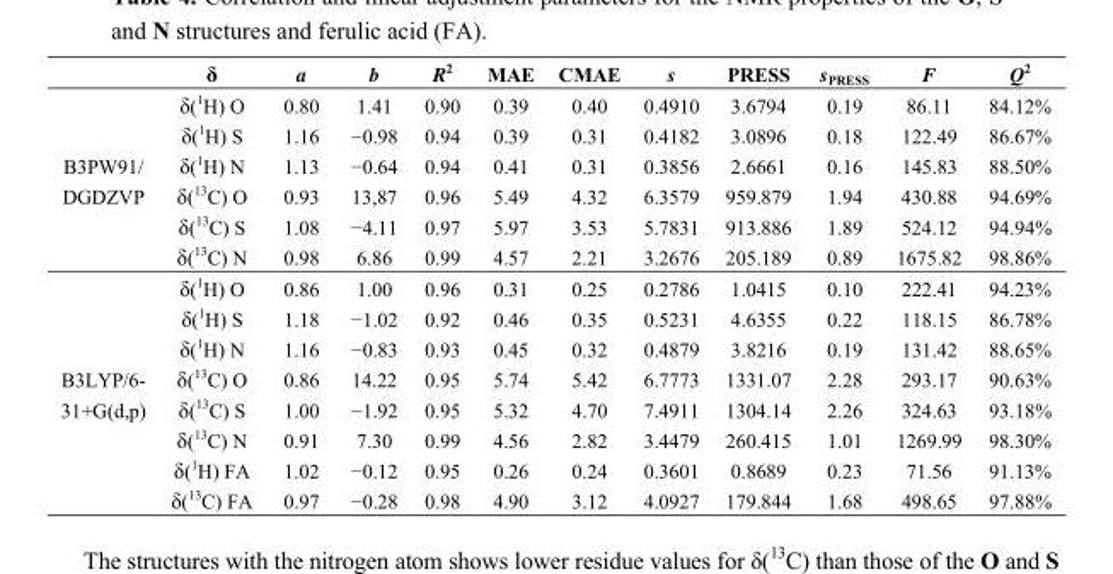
<table><thead><tr><td></td><td>δ</td><td>a</td><td>b</td><td>R<sup>2</sup></td><td>MAE</td><td>CMAE</td><td>s</td><td>PRESS</td><td>s<sub>PRESS</sub></td><td>F</td><td>Q<sup>2</sup></td></tr></thead><tbody><tr><td rowspan="6">B3PW91/ DGDZVP</td><td>δ(<sup>1</sup>H) O</td><td>0.80</td><td>1.41</td><td>0.90</td><td>0.39</td><td>0.40</td><td>0.4910</td><td>3.6794</td><td>0.19</td><td>86.11</td><td>84.12%</td></tr><tr><td>δ(<sup>1</sup>H) S</td><td>1.16</td><td>−0.98</td><td>0.94</td><td>0.39</td><td>0.31</td><td>0.4182</td><td>3.0896</td><td>0.18</td><td>122.49</td><td>86.67%</td></tr><tr><td>δ(<sup>1</sup>H) N</td><td>1.13</td><td>−0.64</td><td>0.94</td><td>0.41</td><td>0.31</td><td>0.3856</td><td>2.6661</td><td>0.16</td><td>145.83</td><td>88.50%</td></tr><tr><td>δ(<sup>13</sup>C) O</td><td>0.93</td><td>13,87</td><td>0.96</td><td>5.49</td><td>4.32</td><td>6.3579</td><td>959.879</td><td>1.94</td><td>430.88</td><td>94.69%</td></tr><tr><td>δ(<sup>13</sup>C) S</td><td>1.08</td><td>−4.11</td><td>0.97</td><td>5.97</td><td>3.53</td><td>5.7831</td><td>913.886</td><td>1.89</td><td>524.12</td><td>94.94%</td></tr><tr><td>δ(<sup>13</sup>C) N</td><td>0.98</td><td>6.86</td><td>0.99</td><td>4.57</td><td>2.21</td><td>3.2676</td><td>205.189</td><td>0.89</td><td>1675.82</td><td>98.86%</td></tr><tr><td rowspan="8">B3LYP/6- 31+G(d,p)</td><td>δ(<sup>1</sup>H) O</td><td>0.86</td><td>1.00</td><td>0.96</td><td>0.31</td><td>0.25</td><td>0.2786</td><td>1.0415</td><td>0.10</td><td>222.41</td><td>94.23%</td></tr><tr><td>δ(<sup>1</sup>H) S</td><td>1.18</td><td>−1.02</td><td>0.92</td><td>0.46</td><td>0.35</td><td>0.5231</td><td>4.6355</td><td>0.22</td><td>118.15</td><td>86.78%</td></tr><tr><td>δ(<sup>1</sup>H) N</td><td>1.16</td><td>−0.83</td><td>0.93</td><td>0.45</td><td>0.32</td><td>0.4879</td><td>3.8216</td><td>0.19</td><td>131.42</td><td>88.65%</td></tr><tr><td>δ(<sup>13</sup>C) O</td><td>0.86</td><td>14.22</td><td>0.95</td><td>5.74</td><td>5.42</td><td>6.7773</td><td>1331.07</td><td>2.28</td><td>293.17</td><td>90.63%</td></tr><tr><td>δ(<sup>13</sup>C) S</td><td>1.00</td><td>−1.92</td><td>0.95</td><td>5.32</td><td>4.70</td><td>7.4911</td><td>1304.14</td><td>2.26</td><td>324.63</td><td>93.18%</td></tr><tr><td>δ(<sup>13</sup>C) N</td><td>0.91</td><td>7.30</td><td>0.99</td><td>4.56</td><td>2.82</td><td>3.4479</td><td>260.415</td><td>1.01</td><td>1269.99</td><td>98.30%</td></tr><tr><td>δ(<sup>1</sup>H) FA</td><td>1.02</td><td>−0.12</td><td>0.95</td><td>0.26</td><td>0.24</td><td>0.3601</td><td>0.8689</td><td>0.23</td><td>71.56</td><td>91.13%</td></tr><tr><td>δ(<sup>13</sup>C) FA</td><td>0.97</td><td>−0.28</td><td>0.98</td><td>4.90</td><td>3.12</td><td>4.0927</td><td>179.844</td><td>1.68</td><td>498.65</td><td>97.88%</td></tr></tbody></table>